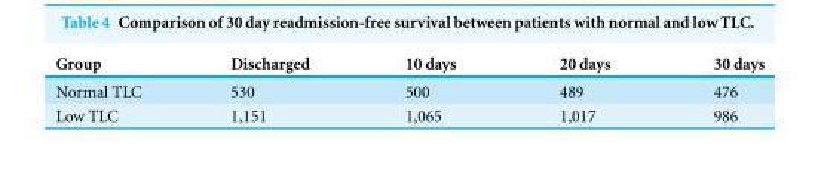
<table><thead><tr><td>Group</td><td>Discharged</td><td>10 days</td><td>20 days</td><td>30 days</td></tr></thead><tbody><tr><td>Normal TLC</td><td>530</td><td>500</td><td>489</td><td>476</td></tr><tr><td>Low TLC</td><td>1,151</td><td>1,065</td><td>1,017</td><td>986</td></tr></tbody></table>